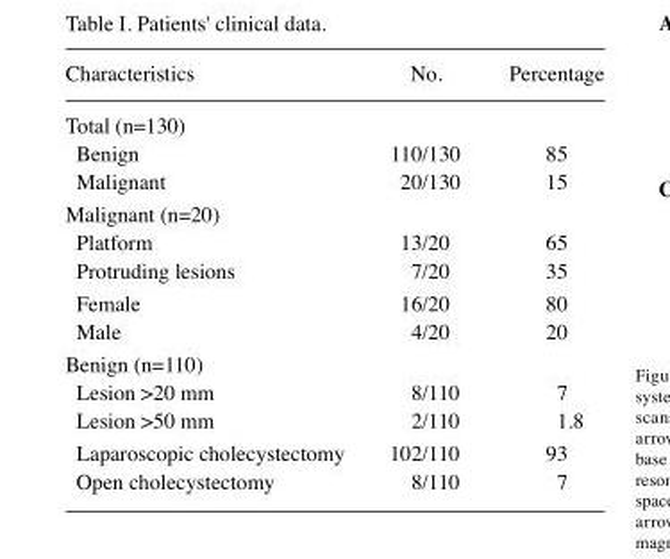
<table><thead><tr><td>Characteristics</td><td>No.</td><td>Percentage</td></tr></thead><tbody><tr><td colspan="3">Total (n=130)</td></tr><tr><td>Benign</td><td>110/130</td><td>85</td></tr><tr><td>Malignant</td><td>20/130</td><td>15</td></tr><tr><td colspan="3">Malignant (n=20)</td></tr><tr><td>Platform</td><td>13/20</td><td>65</td></tr><tr><td>Protruding lesions</td><td>7/20</td><td>35</td></tr><tr><td>Female</td><td>16/20</td><td>80</td></tr><tr><td>Male</td><td>4/20</td><td>20</td></tr><tr><td colspan="3">Benign (n=110)</td></tr><tr><td>Lesion &gt;20 mm</td><td>8/110</td><td>7</td></tr><tr><td>Lesion &gt;50 mm</td><td>2/110</td><td>1.8</td></tr><tr><td>Laparoscopic cholecystectomy</td><td>102/110</td><td>93</td></tr><tr><td>Open cholecystectomy</td><td>8/110</td><td>7</td></tr></tbody></table>